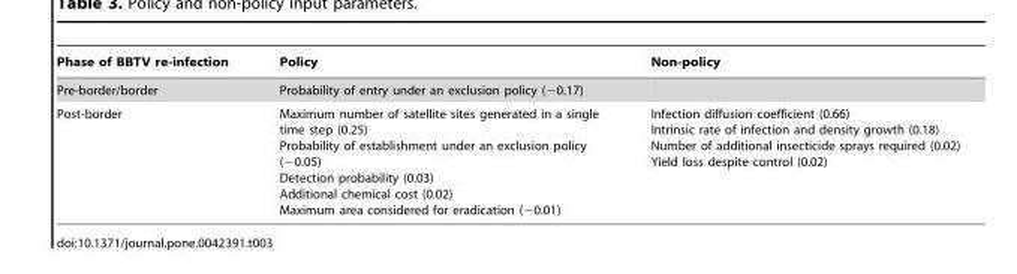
<table><thead><tr><td>Phase of BBTV re-infection</td><td>Policy</td><td>Non-policy</td></tr></thead><tbody><tr><td>Pre-border/border</td><td>Probability of entry under an exclusion policy (−0.17)</td><td></td></tr><tr><td>Post-border</td><td>Maximum number of satellite sites generated in a single time step (0.25) Probability of establishment under an exclusion policy (−0.05) Detection probability (0.03) Additional chemical cost (0.02) Maximum area considered for eradication (−0.01)</td><td>Infection diffusion coefficient (0.66) Intrinsic rate of infection and density growth (0.18) Number of additional insecticide sprays required (0.02) Yield loss despite control (0.02)</td></tr></tbody></table>